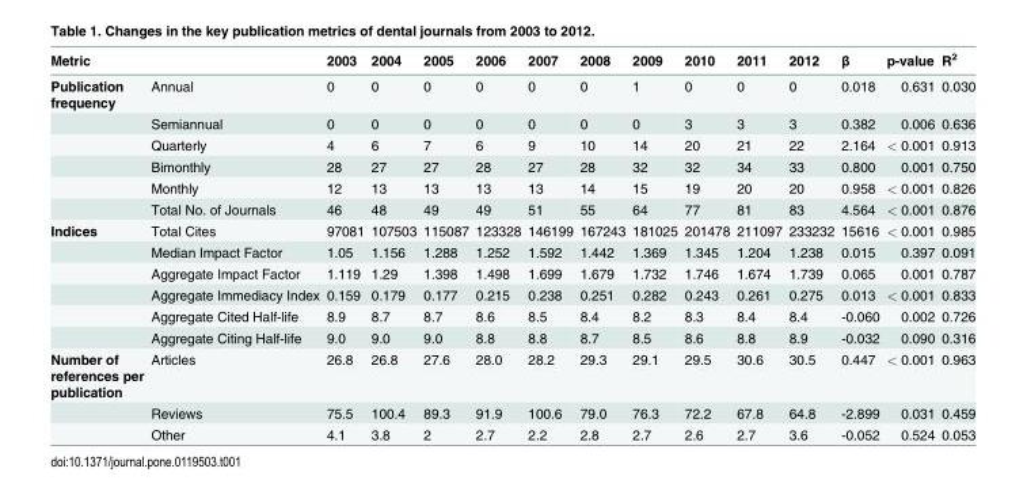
<table><thead><tr><td>Metric</td><td></td><td>2003</td><td>2004</td><td>2005</td><td>2006</td><td>2007</td><td>2008</td><td>2009</td><td>2010</td><td>2011</td><td>2012</td><td>β</td><td>p-value</td><td>R<sup>2</sup></td></tr></thead><tbody><tr><td rowspan="6">Publication frequency</td><td>Annual</td><td>0</td><td>0</td><td>0</td><td>0</td><td>0</td><td>0</td><td>1</td><td>0</td><td>0</td><td>0</td><td>0.018</td><td>0.631</td><td>0.030</td></tr><tr><td>Semiannual</td><td>0</td><td>0</td><td>0</td><td>0</td><td>0</td><td>0</td><td>0</td><td>3</td><td>3</td><td>3</td><td>0.382</td><td>0.006</td><td>0.636</td></tr><tr><td>Quarterly</td><td>4</td><td>6</td><td>7</td><td>6</td><td>9</td><td>10</td><td>14</td><td>20</td><td>21</td><td>22</td><td>2.164</td><td>&lt; 0.001</td><td>0.913</td></tr><tr><td>Bimonthly</td><td>28</td><td>27</td><td>27</td><td>28</td><td>27</td><td>28</td><td>32</td><td>32</td><td>34</td><td>33</td><td>0.800</td><td>0.001</td><td>0.750</td></tr><tr><td>Monthly</td><td>12</td><td>13</td><td>13</td><td>13</td><td>13</td><td>14</td><td>15</td><td>19</td><td>20</td><td>20</td><td>0.958</td><td>&lt; 0.001</td><td>0.826</td></tr><tr><td>Total No. of Journals</td><td>46</td><td>48</td><td>49</td><td>49</td><td>51</td><td>55</td><td>64</td><td>77</td><td>81</td><td>83</td><td>4.564</td><td>&lt; 0.001</td><td>0.876</td></tr><tr><td rowspan="6">Indices</td><td>Total Cites</td><td>97081</td><td>107503</td><td>115087</td><td>123328</td><td>146199</td><td>167243</td><td>181025</td><td>201478</td><td>211097</td><td>233232</td><td>15616</td><td>&lt; 0.001</td><td>0.985</td></tr><tr><td>Median Impact Factor</td><td>1.05</td><td>1.156</td><td>1.288</td><td>1.252</td><td>1.592</td><td>1.442</td><td>1.369</td><td>1.345</td><td>1.204</td><td>1.238</td><td>0.015</td><td>0.397</td><td>0.091</td></tr><tr><td>Aggregate Impact Factor</td><td>1.119</td><td>1.29</td><td>1.398</td><td>1.498</td><td>1.699</td><td>1.679</td><td>1.732</td><td>1.746</td><td>1.674</td><td>1.739</td><td>0.065</td><td>0.001</td><td>0.787</td></tr><tr><td>Aggregate Immediacy Index</td><td>0.159</td><td>0.179</td><td>0.177</td><td>0.215</td><td>0.238</td><td>0.251</td><td>0.282</td><td>0.243</td><td>0.261</td><td>0.275</td><td>0.013</td><td>&lt; 0.001</td><td>0.833</td></tr><tr><td>Aggregate Cited Half-life</td><td>8.9</td><td>8.7</td><td>8.7</td><td>8.6</td><td>8.5</td><td>8.4</td><td>8.2</td><td>8.3</td><td>8.4</td><td>8.4</td><td>-0.060</td><td>0.002</td><td>0.726</td></tr><tr><td>Aggregate Citing Half-life</td><td>9.0</td><td>9.0</td><td>9.0</td><td>8.8</td><td>8.8</td><td>8.7</td><td>8.5</td><td>8.6</td><td>8.8</td><td>8.9</td><td>-0.032</td><td>0.090</td><td>0.316</td></tr><tr><td rowspan="3">Number of references per publication</td><td>Articles</td><td>26.8</td><td>26.8</td><td>27.6</td><td>28.0</td><td>28.2</td><td>29.3</td><td>29.1</td><td>29.5</td><td>30.6</td><td>30.5</td><td>0.447</td><td>&lt; 0.001</td><td>0.963</td></tr><tr><td>Reviews</td><td>75.5</td><td>100.4</td><td>89.3</td><td>91.9</td><td>100.6</td><td>79.0</td><td>76.3</td><td>72.2</td><td>67.8</td><td>64.8</td><td>-2.899</td><td>0.031</td><td>0.459</td></tr><tr><td>Other</td><td>4.1</td><td>3.8</td><td>2</td><td>2.7</td><td>2.2</td><td>2.8</td><td>2.7</td><td>2.6</td><td>2.7</td><td>3.6</td><td>-0.052</td><td>0.524</td><td>0.053</td></tr></tbody></table>